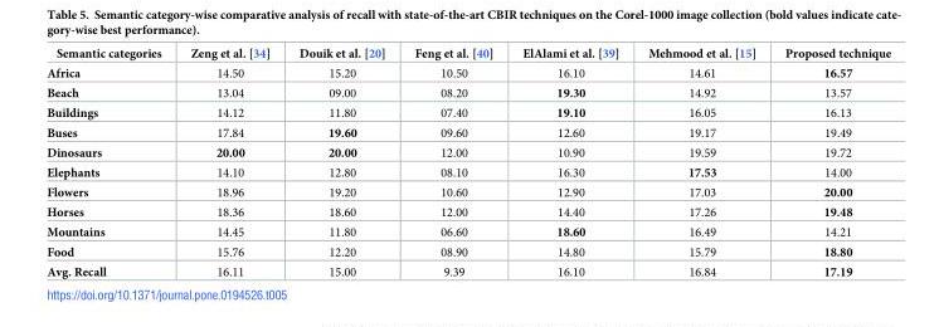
<table><thead><tr><td>Semantic categories</td><td>Zeng et al. [34]</td><td>Douik et al. [20]</td><td>Feng et al. [40]</td><td>ElAlami et al. [39]</td><td>Mehmood et al. [15]</td><td>Proposed technique</td></tr></thead><tbody><tr><td>Africa</td><td>14.50</td><td>15.20</td><td>10.50</td><td>16.10</td><td>14.61</td><td>16.57</td></tr><tr><td>Beach</td><td>13.04</td><td>09.00</td><td>08.20</td><td>19.30</td><td>14.92</td><td>13.57</td></tr><tr><td>Buildings</td><td>14.12</td><td>11.80</td><td>07.40</td><td>19.10</td><td>16.05</td><td>16.13</td></tr><tr><td>Buses</td><td>17.84</td><td>19.60</td><td>09.60</td><td>12.60</td><td>19.17</td><td>19.49</td></tr><tr><td>Dinosaurs</td><td>20.00</td><td>20.00</td><td>12.00</td><td>10.90</td><td>19.59</td><td>19.72</td></tr><tr><td>Elephants</td><td>14.10</td><td>12.80</td><td>08.10</td><td>16.30</td><td>17.53</td><td>14.00</td></tr><tr><td>Flowers</td><td>18.96</td><td>19.20</td><td>10.60</td><td>12.90</td><td>17.03</td><td>20.00</td></tr><tr><td>Horses</td><td>18.36</td><td>18.60</td><td>12.00</td><td>14.40</td><td>17.26</td><td>19.48</td></tr><tr><td>Mountains</td><td>14.45</td><td>11.80</td><td>06.60</td><td>18.60</td><td>16.49</td><td>14.21</td></tr><tr><td>Food</td><td>15.76</td><td>12.20</td><td>08.90</td><td>14.80</td><td>15.79</td><td>18.80</td></tr><tr><td>Avg. Recall</td><td>16.11</td><td>15.00</td><td>9.39</td><td>16.10</td><td>16.84</td><td>17.19</td></tr></tbody></table>